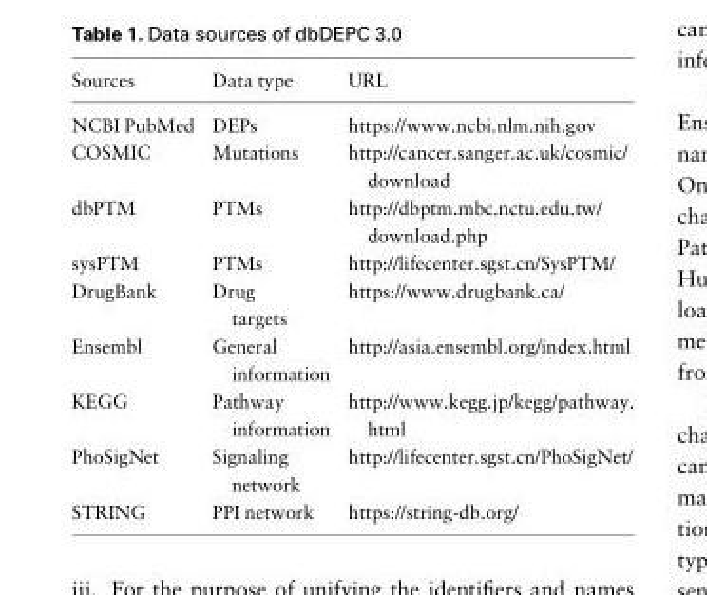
<table><thead><tr><td>Sources</td><td>Data type</td><td>URL</td></tr></thead><tbody><tr><td>NCBI PubMed</td><td>DEPs</td><td>https://www.ncbi.nlm.nih.gov</td></tr><tr><td>COSMIC</td><td>Mutations</td><td>http://cancer.sanger.ac.uk/cosmic/ download</td></tr><tr><td>dbPTM</td><td>PTMs</td><td>http://dbptm.mbc.nctu.edu.tw/ download.php</td></tr><tr><td>sysPTM</td><td>PTMs</td><td>http://lifecenter.sgst.cn/SysPTM/</td></tr><tr><td>DrugBank</td><td>Drug targets</td><td>https://www.drugbank.ca/</td></tr><tr><td>Ensembl</td><td>General information</td><td>http://asia.ensembl.org/index.html</td></tr><tr><td>KEGG</td><td>Pathway information</td><td>http://www.kegg.jp/kegg/pathway. html</td></tr><tr><td>PhoSigNet</td><td>Signaling network</td><td>http://lifecenter.sgst.cn/PhoSigNet/</td></tr><tr><td>STRING</td><td>PPI network</td><td>https://string-db.org/</td></tr></tbody></table>